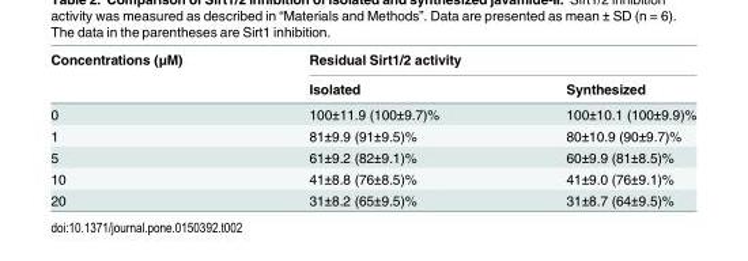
<table><thead><tr><td rowspan="2">Concentrations (μM)</td><td colspan="2">Residual Sirt1/2 activity</td></tr><tr><td>Isolated</td><td>Synthesized</td></tr></thead><tbody><tr><td>0</td><td>100±11.9 (100±9.7)%</td><td>100±10.1 (100±9.9)%</td></tr><tr><td>1</td><td>81±9.9 (91±9.5)%</td><td>80±10.9 (90±9.7)%</td></tr><tr><td>5</td><td>61±9.2 (82±9.1)%</td><td>60±9.9 (81±8.5)%</td></tr><tr><td>10</td><td>41±8.8 (76±8.5)%</td><td>41±9.0 (76±9.1)%</td></tr><tr><td>20</td><td>31±8.2 (65±9.5)%</td><td>31±8.7 (64±9.5)%</td></tr></tbody></table>